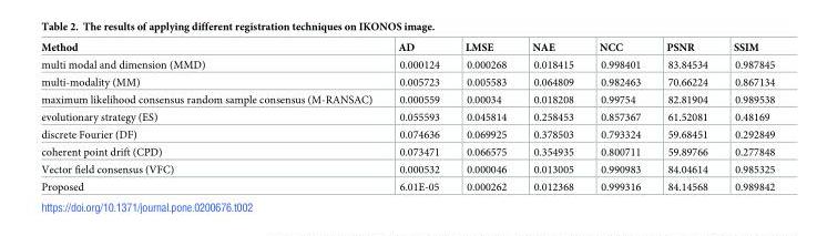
<table><thead><tr><td>Method</td><td>AD</td><td>LMSE</td><td>NAE</td><td>NCC</td><td>PSNR</td><td>SSIM</td></tr></thead><tbody><tr><td>multi modal and dimension (MMD)</td><td>0.000124</td><td>0.000268</td><td>0.018415</td><td>0.998401</td><td>83.84534</td><td>0.987845</td></tr><tr><td>multi-modality (MM)</td><td>0.005723</td><td>0.005583</td><td>0.064809</td><td>0.982463</td><td>70.66224</td><td>0.867134</td></tr><tr><td>maximum likelihood consensus random sample consensus (M-RANSAC)</td><td>0.000559</td><td>0.00034</td><td>0.018208</td><td>0.99754</td><td>82.81904</td><td>0.989538</td></tr><tr><td>evolutionary strategy (ES)</td><td>0.055593</td><td>0.045814</td><td>0.258453</td><td>0.857367</td><td>61.52081</td><td>0.48169</td></tr><tr><td>discrete Fourier (DF)</td><td>0.074636</td><td>0.069925</td><td>0.378503</td><td>0.793324</td><td>59.68451</td><td>0.292849</td></tr><tr><td>coherent point drift (CPD)</td><td>0.073471</td><td>0.066575</td><td>0.354935</td><td>0.800711</td><td>59.89766</td><td>0.277848</td></tr><tr><td>Vector field consensus (VFC)</td><td>0.000532</td><td>0.000046</td><td>0.013005</td><td>0.990983</td><td>84.04614</td><td>0.985325</td></tr><tr><td>Proposed</td><td>6.01E-05</td><td>0.000262</td><td>0.012368</td><td>0.999316</td><td>84.14568</td><td>0.989842</td></tr></tbody></table>